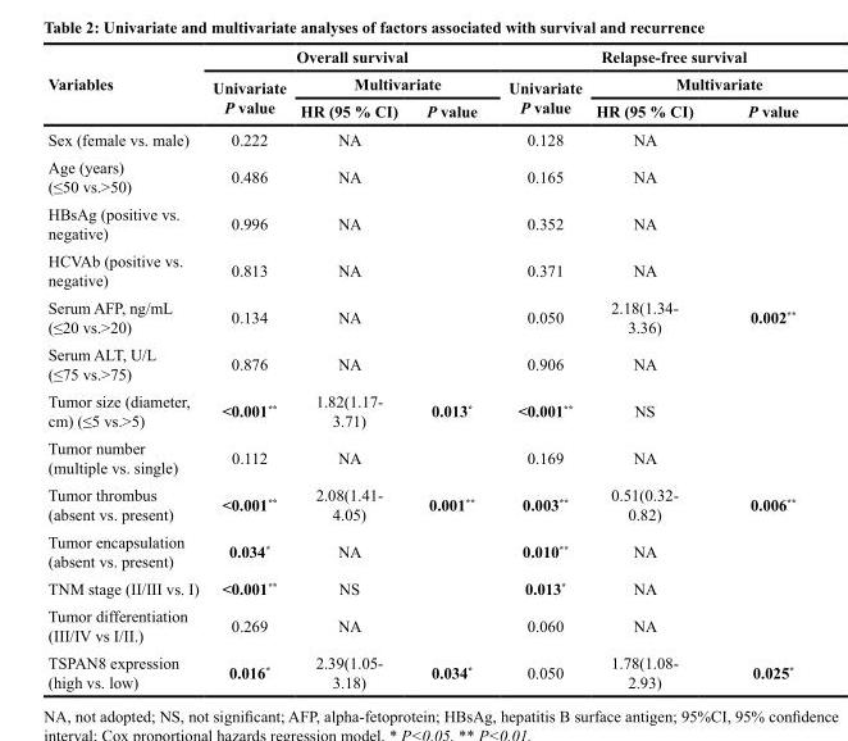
<table><thead><tr><td rowspan="3">Variables</td><td colspan="3">Overall survival</td><td colspan="3">Relapse-free survival</td></tr><tr><td rowspan="2">Univariate P value</td><td colspan="2">Multivariate</td><td rowspan="2">Univariate P value</td><td colspan="2">Multivariate</td></tr><tr><td>HR (95 % CI)</td><td>P value</td><td>HR (95 % CI)</td><td>P value</td></tr></thead><tbody><tr><td>Sex (female vs. male)</td><td>0.222</td><td>NA</td><td></td><td>0.128</td><td>NA</td><td></td></tr><tr><td>Age (years) (≤50 vs.&gt;50)</td><td>0.486</td><td>NA</td><td></td><td>0.165</td><td>NA</td><td></td></tr><tr><td>HBsAg (positive vs. negative)</td><td>0.996</td><td>NA</td><td></td><td>0.352</td><td>NA</td><td></td></tr><tr><td>HCVAb (positive vs. negative)</td><td>0.813</td><td>NA</td><td></td><td>0.371</td><td>NA</td><td></td></tr><tr><td>Serum AFP, ng/mL (≤20 vs.&gt;20)</td><td>0.134</td><td>NA</td><td></td><td>0.050</td><td>2.18(1.34- 3.36)</td><td>0.002**</td></tr><tr><td>Serum ALT, U/L (≤75 vs.&gt;75)</td><td>0.876</td><td>NA</td><td></td><td>0.906</td><td>NA</td><td></td></tr><tr><td>Tumor size (diameter, cm) (≤5 vs.&gt;5)</td><td>&lt;0.001**</td><td>1.82(1.17- 3.71)</td><td>0.013*</td><td>&lt;0.001**</td><td>NS</td><td></td></tr><tr><td>Tumor number (multiple vs. single)</td><td>0.112</td><td>NA</td><td></td><td>0.169</td><td>NA</td><td></td></tr><tr><td>Tumor thrombus (absent vs. present)</td><td>&lt;0.001**</td><td>2.08(1.41- 4.05)</td><td>0.001**</td><td>0.003**</td><td>0.51(0.32- 0.82)</td><td>0.006**</td></tr><tr><td>Tumor encapsulation (absent vs. present)</td><td>0.034*</td><td>NA</td><td></td><td>0.010**</td><td>NA</td><td></td></tr><tr><td>TNM stage (II/III vs. I)</td><td>&lt;0.001**</td><td>NS</td><td></td><td>0.013*</td><td>NA</td><td></td></tr><tr><td>Tumor differentiation (III/IV vs I/II.)</td><td>0.269</td><td>NA</td><td></td><td>0.060</td><td>NA</td><td></td></tr><tr><td>TSPAN8 expression (high vs. low)</td><td>0.016*</td><td>2.39(1.05- 3.18)</td><td>0.034*</td><td>0.050</td><td>1.78(1.08- 2.93)</td><td>0.025*</td></tr></tbody></table>